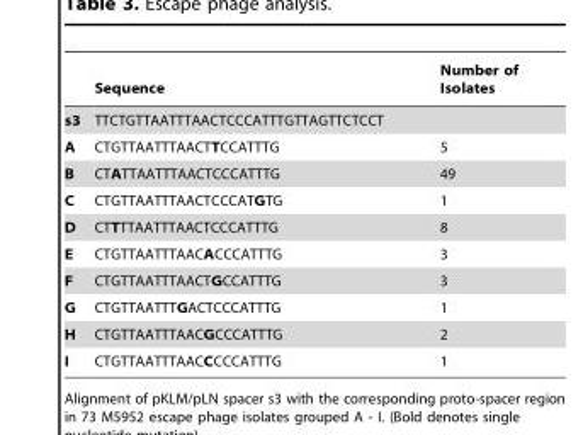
<table><thead><tr><td></td><td>Sequence</td><td>Number of Isolates</td></tr></thead><tbody><tr><td>s3</td><td>TTCTGTTAATTTAACTCCCATTTGTTAGTTCTCCT</td><td></td></tr><tr><td>A</td><td>CTGTTAATTTAACTTCCATTTG</td><td>5</td></tr><tr><td>B</td><td>CTATTAATTTAACTCCCATTTG</td><td>49</td></tr><tr><td>C</td><td>CTGTTAATTTAACTCCCATGTG</td><td>1</td></tr><tr><td>D</td><td>CTTTTAATTTAACTCCCATTTG</td><td>8</td></tr><tr><td>E</td><td>CTGTTAATTTAACACCCATTTG</td><td>3</td></tr><tr><td>F</td><td>CTGTTAATTTAACTGCCATTTG</td><td>3</td></tr><tr><td>G</td><td>CTGTTAATTTGACTCCCATTTG</td><td>1</td></tr><tr><td>H</td><td>CTGTTAATTTAACGCCCATTTG</td><td>2</td></tr><tr><td>I</td><td>CTGTTAATTTAACCCCCATTTG</td><td>1</td></tr></tbody></table>